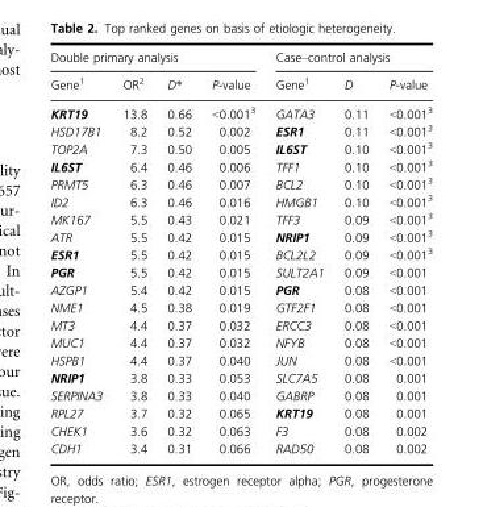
<table><thead><tr><td colspan="4">Double primary analysis</td><td colspan="3">Case–control analysis</td></tr><tr><td>Gene<sup>1</sup></td><td>OR<sup>2</sup></td><td>D*</td><td>P-value</td><td>Gene<sup>1</sup></td><td>D</td><td>P-value</td></tr></thead><tbody><tr><td>KRT19</td><td>13.8</td><td>0.66</td><td>&lt;0.001<sup>3</sup></td><td>GATA3</td><td>0.11</td><td>&lt;0.001<sup>3</sup></td></tr><tr><td>HSD17B1</td><td>8.2</td><td>0.52</td><td>0.002</td><td>ESR1</td><td>0.11</td><td>&lt;0.001<sup>3</sup></td></tr><tr><td>TOP2A</td><td>7.3</td><td>0.50</td><td>0.005</td><td>IL6ST</td><td>0.10</td><td>&lt;0.001<sup>3</sup></td></tr><tr><td>IL6ST</td><td>6.4</td><td>0.46</td><td>0.006</td><td>TFF1</td><td>0.10</td><td>&lt;0.001<sup>3</sup></td></tr><tr><td>PRMT5</td><td>6.3</td><td>0.46</td><td>0.007</td><td>BCL2</td><td>0.10</td><td>&lt;0.001<sup>3</sup></td></tr><tr><td>ID2</td><td>6.3</td><td>0.46</td><td>0.016</td><td>HMGB1</td><td>0.10</td><td>&lt;0.001<sup>3</sup></td></tr><tr><td>MK167</td><td>5.5</td><td>0.43</td><td>0.021</td><td>TFF3</td><td>0.09</td><td>&lt;0.001<sup>3</sup></td></tr><tr><td>ATR</td><td>5.5</td><td>0.42</td><td>0.015</td><td>NRIP1</td><td>0.09</td><td>&lt;0.001<sup>3</sup></td></tr><tr><td>ESR1</td><td>5.5</td><td>0.42</td><td>0.015</td><td>BCL2L2</td><td>0.09</td><td>&lt;0.001<sup>3</sup></td></tr><tr><td>PGR</td><td>5.5</td><td>0.42</td><td>0.015</td><td>SULT2A1</td><td>0.09</td><td>&lt;0.001</td></tr><tr><td>AZGP1</td><td>5.4</td><td>0.42</td><td>0.015</td><td>PGR</td><td>0.08</td><td>&lt;0.001</td></tr><tr><td>NME1</td><td>4.5</td><td>0.38</td><td>0.019</td><td>GTF2F1</td><td>0.08</td><td>&lt;0.001</td></tr><tr><td>MT3</td><td>4.4</td><td>0.37</td><td>0.032</td><td>ERCC3</td><td>0.08</td><td>&lt;0.001</td></tr><tr><td>MUC1</td><td>4.4</td><td>0.37</td><td>0.032</td><td>NFYB</td><td>0.08</td><td>&lt;0.001</td></tr><tr><td>HSPB1</td><td>4.4</td><td>0.37</td><td>0.040</td><td>JUN</td><td>0.08</td><td>&lt;0.001</td></tr><tr><td>NRIP1</td><td>3.8</td><td>0.33</td><td>0.053</td><td>SLC7A5</td><td>0.08</td><td>0.001</td></tr><tr><td>SERPINA3</td><td>3.8</td><td>0.33</td><td>0.040</td><td>GABRP</td><td>0.08</td><td>0.001</td></tr><tr><td>RPL27</td><td>3.7</td><td>0.32</td><td>0.065</td><td>KRT19</td><td>0.08</td><td>0.001</td></tr><tr><td>CHEK1</td><td>3.6</td><td>0.32</td><td>0.063</td><td>F3</td><td>0.08</td><td>0.002</td></tr><tr><td>CDH1</td><td>3.4</td><td>0.31</td><td>0.066</td><td>RAD50</td><td>0.08</td><td>0.002</td></tr></tbody></table>